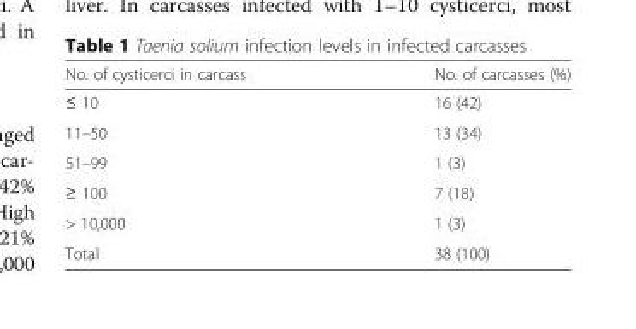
<table><thead><tr><td>No. of cysticerci in carcass</td><td>No. of carcasses (%)</td></tr></thead><tbody><tr><td>≤ 10</td><td>16 (42)</td></tr><tr><td>11–50</td><td>13 (34)</td></tr><tr><td>51–99</td><td>1 (3)</td></tr><tr><td>≥ 100</td><td>7 (18)</td></tr><tr><td>&gt; 10,000</td><td>1 (3)</td></tr><tr><td>Total</td><td>38 (100)</td></tr></tbody></table>